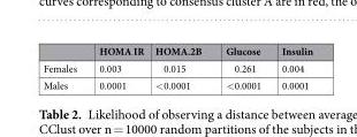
<table><thead><tr><td></td><td>HOMA IR</td><td>HOMA.2B</td><td>Glucose</td><td>Insulin</td></tr></thead><tbody><tr><td>Females</td><td>0.003</td><td>0.015</td><td>0.261</td><td>0.004</td></tr><tr><td>Males</td><td>0.0001</td><td>&lt;0.0001</td><td>&lt;0.0001</td><td>0.0001</td></tr></tbody></table>